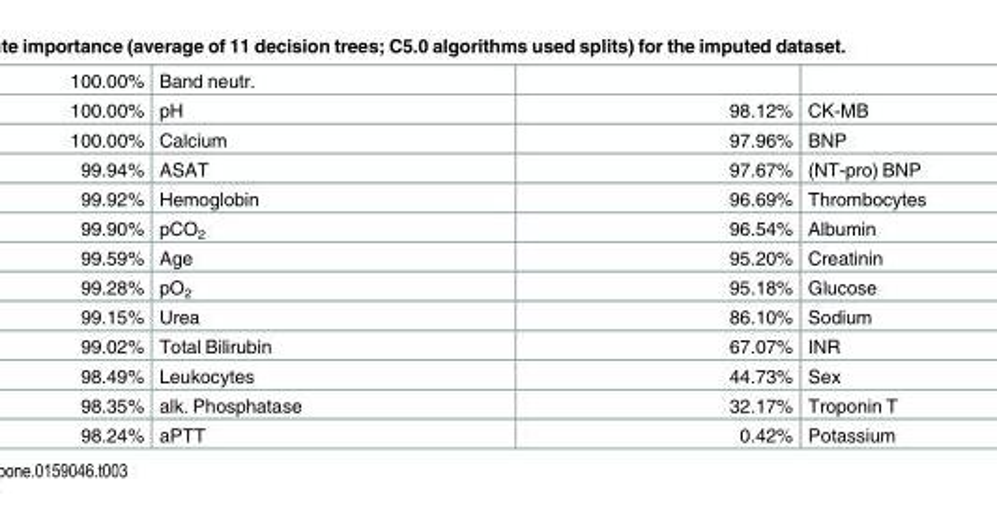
<table><tbody><tr><td>100.00%</td><td>Band neutr.</td><td></td><td></td></tr><tr><td>100.00%</td><td>pH</td><td>98.12%</td><td>CK-MB</td></tr><tr><td>100.00%</td><td>Calcium</td><td>97.96%</td><td>BNP</td></tr><tr><td>99.94%</td><td>ASAT</td><td>97.67%</td><td>(NT-pro) BNP</td></tr><tr><td>99.92%</td><td>Hemoglobin</td><td>96.69%</td><td>Thrombocytes</td></tr><tr><td>99.90%</td><td>pCO<sub>2</sub></td><td>96.54%</td><td>Albumin</td></tr><tr><td>99.59%</td><td>Age</td><td>95.20%</td><td>Creatinin</td></tr><tr><td>99.28%</td><td>pO<sub>2</sub></td><td>95.18%</td><td>Glucose</td></tr><tr><td>99.15%</td><td>Urea</td><td>86.10%</td><td>Sodium</td></tr><tr><td>99.02%</td><td>Total Bilirubin</td><td>67.07%</td><td>INR</td></tr><tr><td>98.49%</td><td>Leukocytes</td><td>44.73%</td><td>Sex</td></tr><tr><td>98.35%</td><td>alk. Phosphatase</td><td>32.17%</td><td>Troponin T</td></tr><tr><td>98.24%</td><td>aPTT</td><td>0.42%</td><td>Potassium</td></tr></tbody></table>